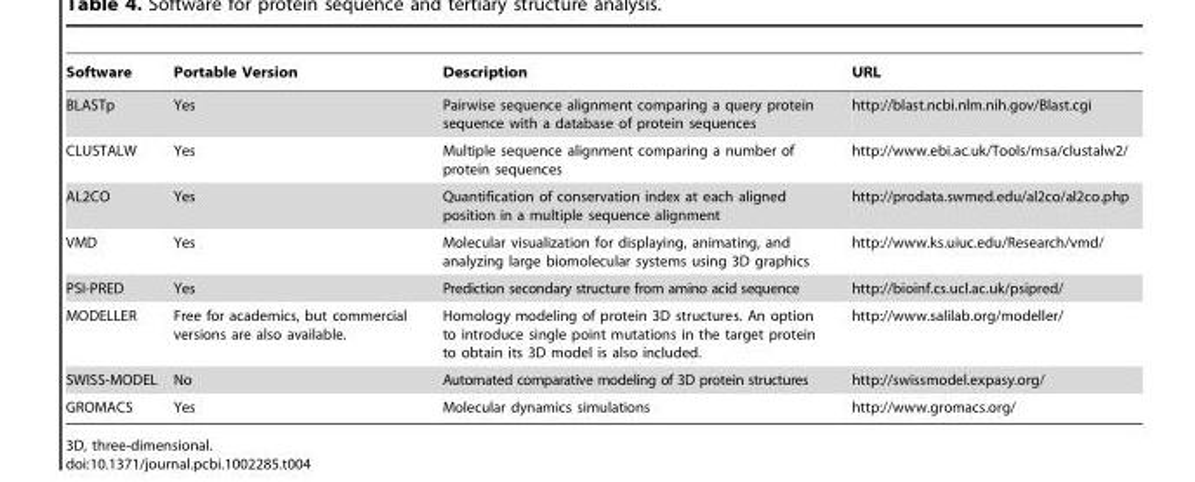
<table><thead><tr><td>Software</td><td>Portable Version</td><td>Description</td><td>URL</td></tr></thead><tbody><tr><td>BLASTp</td><td>Yes</td><td>Pairwise sequence alignment comparing a query protein sequence with a database of protein sequences</td><td>http://blast.ncbi.nlm.nih.gov/Blast.cgi</td></tr><tr><td>CLUSTALW</td><td>Yes</td><td>Multiple sequence alignment comparing a number of protein sequences</td><td>http://www.ebi.ac.uk/Tools/msa/clustalw2/</td></tr><tr><td>AL2CO</td><td>Yes</td><td>Quantification of conservation index at each aligned position in a multiple sequence alignment</td><td>http://prodata.swmed.edu/al2co/al2co.php</td></tr><tr><td>VMD</td><td>Yes</td><td>Molecular visualization for displaying, animating, and analyzing large biomolecular systems using 3D graphics</td><td>http://www.ks.uiuc.edu/Research/vmd/</td></tr><tr><td>PSI-PRED</td><td>Yes</td><td>Prediction secondary structure from amino acid sequence</td><td>http://bioinf.cs.ucl.ac.uk/psipred/</td></tr><tr><td>MODELLER</td><td>Free for academics, but commercial versions are also available.</td><td>Homology modeling of protein 3D structures. An option to introduce single point mutations in the target protein to obtain its 3D model is also included.</td><td>http://www.salilab.org/modeller/</td></tr><tr><td>SWISS-MODEL</td><td>No</td><td>Automated comparative modeling of 3D protein structures</td><td>http://swissmodel.expasy.org/</td></tr><tr><td>GROMACS</td><td>Yes</td><td>Molecular dynamics simulations</td><td>http://www.gromacs.org/</td></tr></tbody></table>